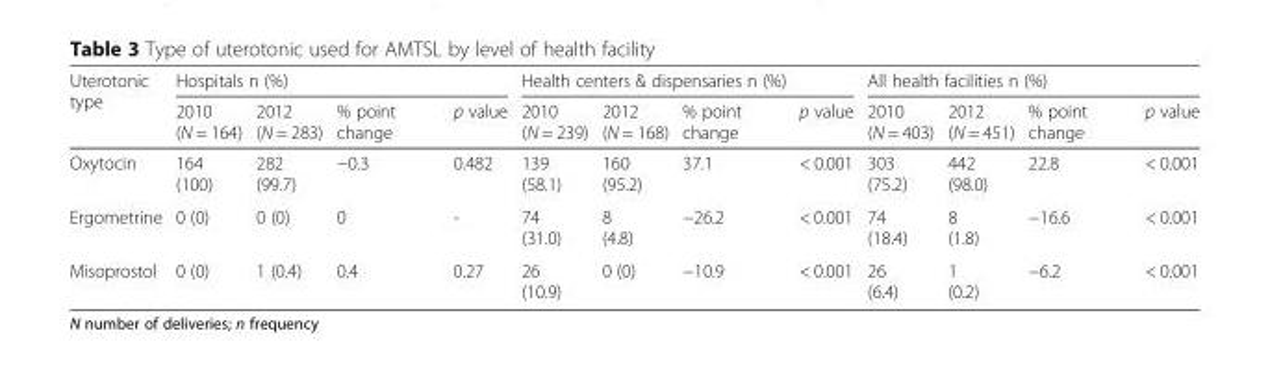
<table><thead><tr><td rowspan="2">Uterotonic type</td><td colspan="4">Hospitals n (%)</td><td colspan="4">Health centers &amp; dispensaries n (%)</td><td colspan="4">All health facilities n (%)</td></tr><tr><td>2010 (N = 164)</td><td>2012 (N = 283)</td><td>% point change</td><td>p value</td><td>2010 (N = 239)</td><td>2012 (N = 168)</td><td>% point change</td><td>p value</td><td>2010 (N = 403)</td><td>2012 (N = 451)</td><td>% point change</td><td>p value</td></tr></thead><tbody><tr><td>Oxytocin</td><td>164 (100)</td><td>282 (99.7)</td><td>−0.3</td><td>0.482</td><td>139 (58.1)</td><td>160 (95.2)</td><td>37.1</td><td>&lt; 0.001</td><td>303 (75.2)</td><td>442 (98.0)</td><td>22.8</td><td>&lt; 0.001</td></tr><tr><td>Ergometrine</td><td>0 (0)</td><td>0 (0)</td><td>0</td><td>-</td><td>74 (31.0)</td><td>8 (4.8)</td><td>−26.2</td><td>&lt; 0.001</td><td>74 (18.4)</td><td>8 (1.8)</td><td>−16.6</td><td>&lt; 0.001</td></tr><tr><td>Misoprostol</td><td>0 (0)</td><td>1 (0.4)</td><td>0.4</td><td>0.27</td><td>26 (10.9)</td><td>0 (0)</td><td>−10.9</td><td>&lt; 0.001</td><td>26 (6.4)</td><td>1 (0.2)</td><td>−6.2</td><td>&lt; 0.001</td></tr></tbody></table>